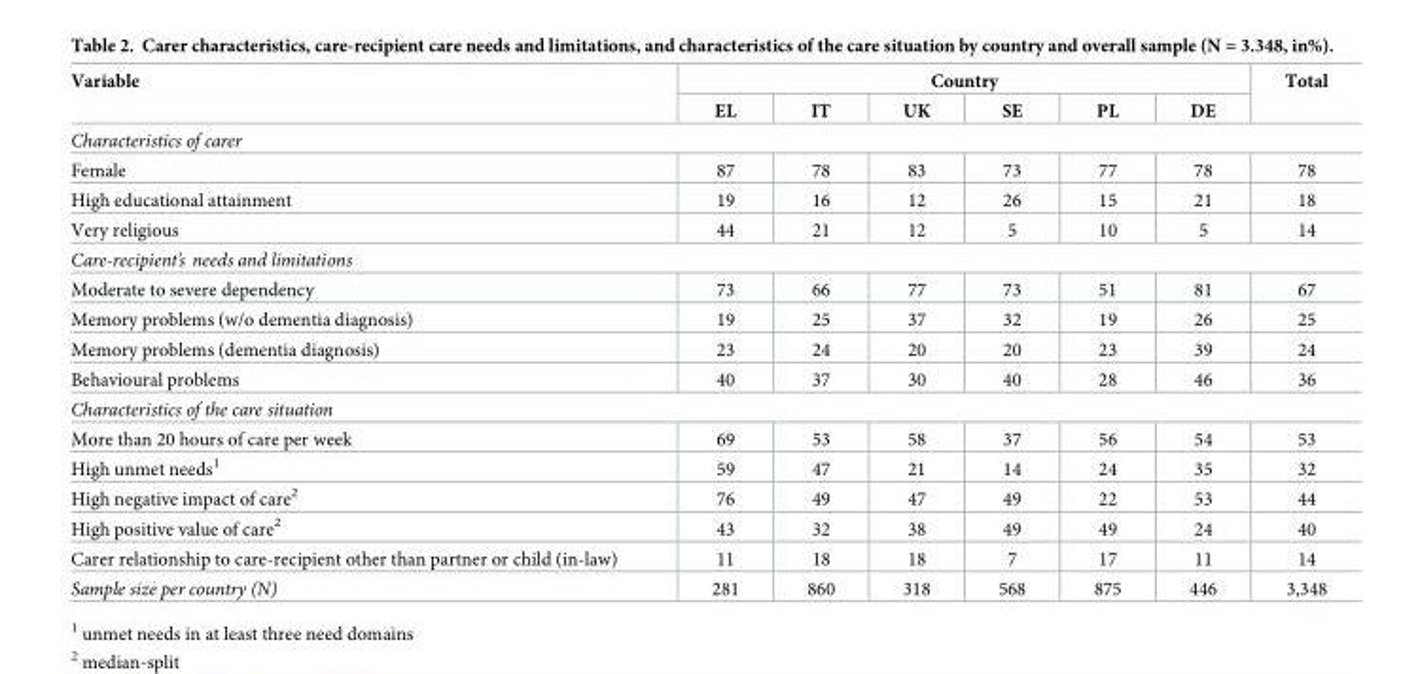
<table><thead><tr><td rowspan="2">Variable</td><td colspan="6">Country</td><td rowspan="2">Total</td></tr><tr><td>EL</td><td>IT</td><td>UK</td><td>SE</td><td>PL</td><td>DE</td></tr></thead><tbody><tr><td colspan="8">Characteristics of carer</td></tr><tr><td>Female</td><td>87</td><td>78</td><td>83</td><td>73</td><td>77</td><td>78</td><td>78</td></tr><tr><td>High educational attainment</td><td>19</td><td>16</td><td>12</td><td>26</td><td>15</td><td>21</td><td>18</td></tr><tr><td>Very religious</td><td>44</td><td>21</td><td>12</td><td>5</td><td>10</td><td>5</td><td>14</td></tr><tr><td colspan="8">Care-recipient’s needs and limitations</td></tr><tr><td>Moderate to severe dependency</td><td>73</td><td>66</td><td>77</td><td>73</td><td>51</td><td>81</td><td>67</td></tr><tr><td>Memory problems (w/o dementia diagnosis)</td><td>19</td><td>25</td><td>37</td><td>32</td><td>19</td><td>26</td><td>25</td></tr><tr><td>Memory problems (dementia diagnosis)</td><td>23</td><td>24</td><td>20</td><td>20</td><td>23</td><td>39</td><td>24</td></tr><tr><td>Behavioural problems</td><td>40</td><td>37</td><td>30</td><td>40</td><td>28</td><td>46</td><td>36</td></tr><tr><td colspan="8">Characteristics of the care situation</td></tr><tr><td>More than 20 hours of care per week</td><td>69</td><td>53</td><td>58</td><td>37</td><td>56</td><td>54</td><td>53</td></tr><tr><td>High unmet needs<sup>1</sup></td><td>59</td><td>47</td><td>21</td><td>14</td><td>24</td><td>35</td><td>32</td></tr><tr><td>High negative impact of care<sup>2</sup></td><td>76</td><td>49</td><td>47</td><td>49</td><td>22</td><td>53</td><td>44</td></tr><tr><td>High positive value of care<sup>2</sup></td><td>43</td><td>32</td><td>38</td><td>49</td><td>49</td><td>24</td><td>40</td></tr><tr><td>Carer relationship to care-recipient other than partner or child (in-law)</td><td>11</td><td>18</td><td>18</td><td>7</td><td>17</td><td>11</td><td>14</td></tr><tr><td>Sample size per country (N)</td><td>281</td><td>860</td><td>318</td><td>568</td><td>875</td><td>446</td><td>3,348</td></tr></tbody></table>